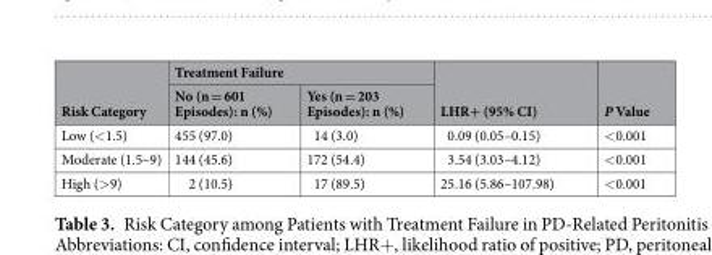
<table><thead><tr><td rowspan="2">Risk Category</td><td colspan="2">Treatment Failure</td><td rowspan="2">LHR+ (95% CI)</td><td rowspan="2">P Value</td></tr><tr><td>No (n = 601 Episodes): n (%)</td><td>Yes (n = 203 Episodes): n (%)</td></tr></thead><tbody><tr><td>Low (&lt;1.5)</td><td>455 (97.0)</td><td>14 (3.0)</td><td>0.09 (0.05–0.15)</td><td>&lt;0.001</td></tr><tr><td>Moderate (1.5–9)</td><td>144 (45.6)</td><td>172 (54.4)</td><td>3.54 (3.03–4.12)</td><td>&lt;0.001</td></tr><tr><td>High (&gt;9)</td><td>2 (10.5)</td><td>17 (89.5)</td><td>25.16 (5.86–107.98)</td><td>&lt;0.001</td></tr></tbody></table>